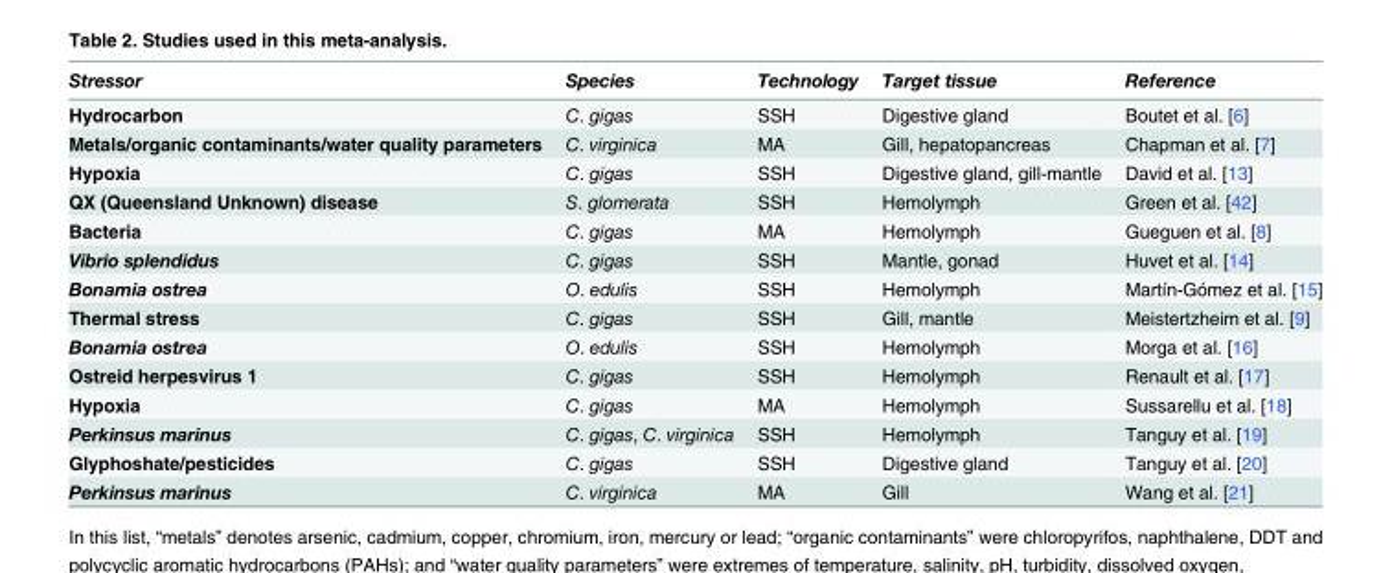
<table><thead><tr><td>Stressor</td><td>Species</td><td>Technology</td><td>Target tissue</td><td>Reference</td></tr></thead><tbody><tr><td>Hydrocarbon</td><td>C. gigas</td><td>SSH</td><td>Digestive gland</td><td>Boutet et al. [6]</td></tr><tr><td>Metals/organic contaminants/water quality parameters</td><td>C. virginica</td><td>MA</td><td>Gill, hepatopancreas</td><td>Chapman et al. [7]</td></tr><tr><td>Hypoxia</td><td>C. gigas</td><td>SSH</td><td>Digestive gland, gill-mantle</td><td>David et al. [13]</td></tr><tr><td>QX (Queensland Unknown) disease</td><td>S. glomerata</td><td>SSH</td><td>Hemolymph</td><td>Green et al. [42]</td></tr><tr><td>Bacteria</td><td>C. gigas</td><td>MA</td><td>Hemolymph</td><td>Gueguen et al. [8]</td></tr><tr><td>Vibrio splendidus</td><td>C. gigas</td><td>SSH</td><td>Mantle, gonad</td><td>Huvet et al. [14]</td></tr><tr><td>Bonamia ostrea</td><td>O. edulis</td><td>SSH</td><td>Hemolymph</td><td>Martín-Gómez et al. [15]</td></tr><tr><td>Thermal stress</td><td>C. gigas</td><td>SSH</td><td>Gill, mantle</td><td>Meistertzheim et al. [9]</td></tr><tr><td>Bonamia ostrea</td><td>O. edulis</td><td>SSH</td><td>Hemolymph</td><td>Morga et al. [16]</td></tr><tr><td>Ostreid herpesvirus 1</td><td>C. gigas</td><td>SSH</td><td>Hemolymph</td><td>Renault et al. [17]</td></tr><tr><td>Hypoxia</td><td>C. gigas</td><td>MA</td><td>Hemolymph</td><td>Sussarellu et al. [18]</td></tr><tr><td>Perkinsus marinus</td><td>C. gigas, C. virginica</td><td>SSH</td><td>Hemolymph</td><td>Tanguy et al. [19]</td></tr><tr><td>Glyphoshate/pesticides</td><td>C. gigas</td><td>SSH</td><td>Digestive gland</td><td>Tanguy et al. [20]</td></tr><tr><td>Perkinsus marinus</td><td>C. virginica</td><td>MA</td><td>Gill</td><td>Wang et al. [21]</td></tr></tbody></table>